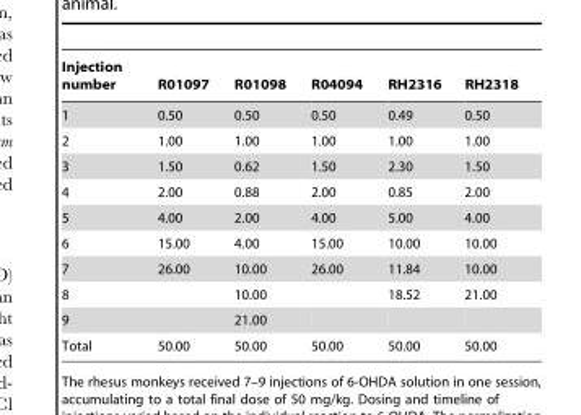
<table><thead><tr><td>Injection number</td><td>R01097</td><td>R01098</td><td>R04094</td><td>RH2316</td><td>RH2318</td></tr></thead><tbody><tr><td>1</td><td>0.50</td><td>0.50</td><td>0.50</td><td>0.49</td><td>0.50</td></tr><tr><td>2</td><td>1.00</td><td>1.00</td><td>1.00</td><td>1.00</td><td>1.00</td></tr><tr><td>3</td><td>1.50</td><td>0.62</td><td>1.50</td><td>2.30</td><td>1.50</td></tr><tr><td>4</td><td>2.00</td><td>0.88</td><td>2.00</td><td>0.85</td><td>2.00</td></tr><tr><td>5</td><td>4.00</td><td>2.00</td><td>4.00</td><td>5.00</td><td>4.00</td></tr><tr><td>6</td><td>15.00</td><td>4.00</td><td>15.00</td><td>10.00</td><td>10.00</td></tr><tr><td>7</td><td>26.00</td><td>10.00</td><td>26.00</td><td>11.84</td><td>10.00</td></tr><tr><td>8</td><td></td><td>10.00</td><td></td><td>18.52</td><td>21.00</td></tr><tr><td>9</td><td></td><td>21.00</td><td></td><td></td><td></td></tr><tr><td>Total</td><td>50.00</td><td>50.00</td><td>50.00</td><td>50.00</td><td>50.00</td></tr></tbody></table>